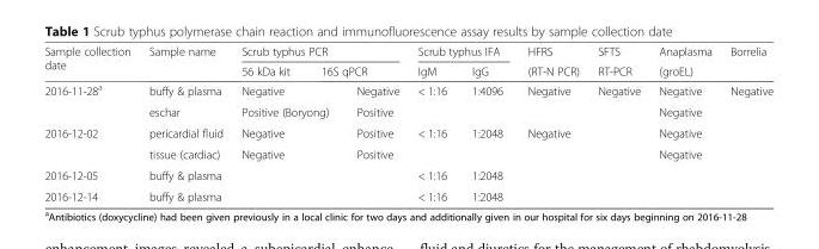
<table><thead><tr><td rowspan="2">Sample collection date</td><td rowspan="2">Sample name</td><td colspan="3">Scrub typhus PCR</td><td colspan="2">Scrub typhus IFA</td><td rowspan="2">HFRS (RT-N PCR)</td><td rowspan="2">SFTS RT-PCR</td><td rowspan="2">Anaplasma (groEL)</td><td rowspan="2">Borrelia</td></tr><tr><td>56 kDa kit</td><td colspan="2">16S qPCR</td><td>IgM</td><td>IgG</td></tr></thead><tbody><tr><td rowspan="2">2016-11-28<sup>a</sup></td><td>buffy &amp; plasma</td><td colspan="2">Negative</td><td>Negative</td><td>&lt; 1:16</td><td>1:4096</td><td>Negative</td><td>Negative</td><td>Negative</td><td>Negative</td></tr><tr><td>eschar</td><td colspan="2">Positive (Boryong)</td><td>Positive</td><td></td><td></td><td></td><td></td><td>Negative</td><td></td></tr><tr><td rowspan="2">2016-12-02</td><td>pericardial fluid</td><td colspan="2">Negative</td><td>Positive</td><td>&lt; 1:16</td><td>1:2048</td><td>Negative</td><td></td><td>Negative</td><td></td></tr><tr><td>tissue (cardiac)</td><td colspan="2">Negative</td><td>Positive</td><td></td><td></td><td></td><td></td><td>Negative</td><td></td></tr><tr><td>2016-12-05</td><td>buffy &amp; plasma</td><td></td><td></td><td></td><td>&lt; 1:16</td><td>1:2048</td><td></td><td></td><td></td><td></td></tr><tr><td>2016-12-14</td><td>buffy &amp; plasma</td><td></td><td></td><td></td><td>&lt; 1:16</td><td>1:2048</td><td></td><td></td><td></td><td></td></tr></tbody></table>